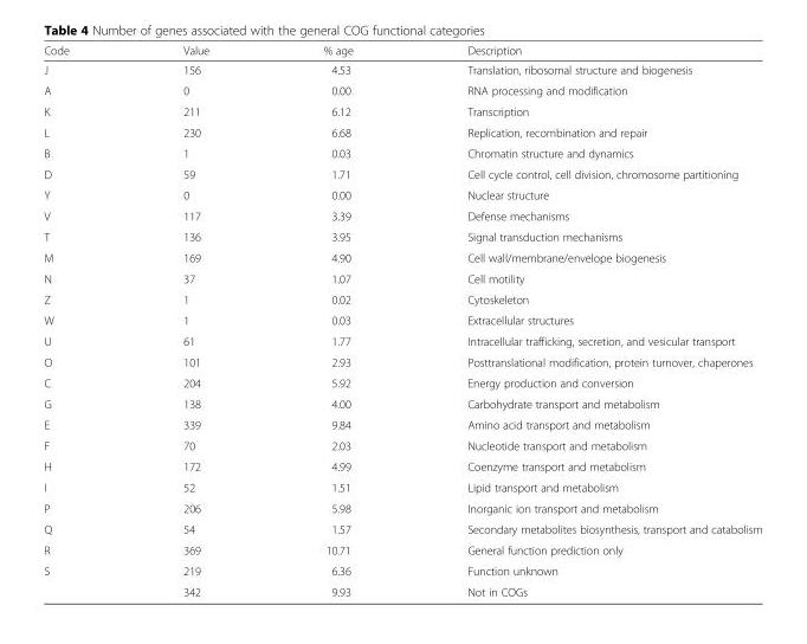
<table><thead><tr><td>Code</td><td>Value</td><td>% age</td><td>Description</td></tr></thead><tbody><tr><td>J</td><td>156</td><td>4.53</td><td>Translation, ribosomal structure and biogenesis</td></tr><tr><td>A</td><td>0</td><td>0.00</td><td>RNA processing and modification</td></tr><tr><td>K</td><td>211</td><td>6.12</td><td>Transcription</td></tr><tr><td>L</td><td>230</td><td>6.68</td><td>Replication, recombination and repair</td></tr><tr><td>B</td><td>1</td><td>0.03</td><td>Chromatin structure and dynamics</td></tr><tr><td>D</td><td>59</td><td>1.71</td><td>Cell cycle control, cell division, chromosome partitioning</td></tr><tr><td>Y</td><td>0</td><td>0.00</td><td>Nuclear structure</td></tr><tr><td>V</td><td>117</td><td>3.39</td><td>Defense mechanisms</td></tr><tr><td>T</td><td>136</td><td>3.95</td><td>Signal transduction mechanisms</td></tr><tr><td>M</td><td>169</td><td>4.90</td><td>Cell wall/membrane/envelope biogenesis</td></tr><tr><td>N</td><td>37</td><td>1.07</td><td>Cell motility</td></tr><tr><td>Z</td><td>1</td><td>0.02</td><td>Cytoskeleton</td></tr><tr><td>W</td><td>1</td><td>0.03</td><td>Extracellular structures</td></tr><tr><td>U</td><td>61</td><td>1.77</td><td>Intracellular trafficking, secretion, and vesicular transport</td></tr><tr><td>O</td><td>101</td><td>2.93</td><td>Posttranslational modification, protein turnover, chaperones</td></tr><tr><td>C</td><td>204</td><td>5.92</td><td>Energy production and conversion</td></tr><tr><td>G</td><td>138</td><td>4.00</td><td>Carbohydrate transport and metabolism</td></tr><tr><td>E</td><td>339</td><td>9.84</td><td>Amino acid transport and metabolism</td></tr><tr><td>F</td><td>70</td><td>2.03</td><td>Nucleotide transport and metabolism</td></tr><tr><td>H</td><td>172</td><td>4.99</td><td>Coenzyme transport and metabolism</td></tr><tr><td>I</td><td>52</td><td>1.51</td><td>Lipid transport and metabolism</td></tr><tr><td>P</td><td>206</td><td>5.98</td><td>Inorganic ion transport and metabolism</td></tr><tr><td>Q</td><td>54</td><td>1.57</td><td>Secondary metabolites biosynthesis, transport and catabolism</td></tr><tr><td>R</td><td>369</td><td>10.71</td><td>General function prediction only</td></tr><tr><td rowspan="2">S</td><td>219</td><td>6.36</td><td>Function unknown</td></tr><tr><td>342</td><td>9.93</td><td>Not in COGs</td></tr></tbody></table>